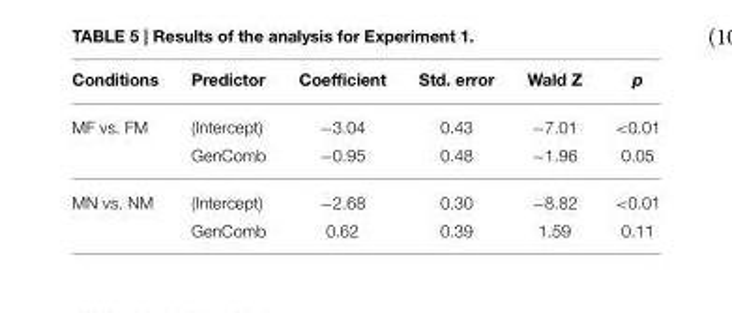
<table><thead><tr><td>Conditions</td><td>Predictor</td><td>Coefficient</td><td>Std. error</td><td>Wald Z</td><td>p</td></tr></thead><tbody><tr><td rowspan="2">MF vs. FM</td><td>(Intercept)</td><td>−3.04</td><td>0.43</td><td>−7.01</td><td>&lt;0.01</td></tr><tr><td>GenComb</td><td>−0.95</td><td>0.48</td><td>−1.96</td><td>0.05</td></tr><tr><td rowspan="2">MN vs. NM</td><td>(Intercept)</td><td>−2.68</td><td>0.30</td><td>−8.82</td><td>&lt;0.01</td></tr><tr><td>GenComb</td><td>0.62</td><td>0.39</td><td>1.59</td><td>0.11</td></tr></tbody></table>